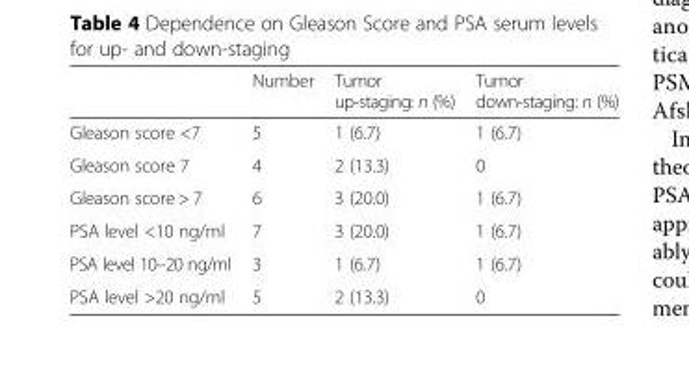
<table><thead><tr><td></td><td>Number</td><td>Tumor up-staging: n (%)</td><td>Tumor down-staging: n (%)</td></tr></thead><tbody><tr><td>Gleason score &lt;7</td><td>5</td><td>1 (6.7)</td><td>1 (6.7)</td></tr><tr><td>Gleason score 7</td><td>4</td><td>2 (13.3)</td><td>0</td></tr><tr><td>Gleason score &gt; 7</td><td>6</td><td>3 (20.0)</td><td>1 (6.7)</td></tr><tr><td>PSA level &lt;10 ng/ml</td><td>7</td><td>3 (20.0)</td><td>1 (6.7)</td></tr><tr><td>PSA level 10–20 ng/ml</td><td>3</td><td>1 (6.7)</td><td>1 (6.7)</td></tr><tr><td>PSA level &gt;20 ng/ml</td><td>5</td><td>2 (13.3)</td><td>0</td></tr></tbody></table>